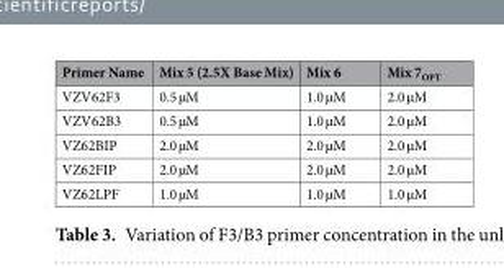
<table><thead><tr><td>Primer Name</td><td>Mix 5 (2.5X Base Mix)</td><td>Mix 6</td><td>Mix 7<sub>OPT</sub></td></tr></thead><tbody><tr><td>VZV62F3</td><td>0.5 µM</td><td>1.0 µM</td><td>2.0 µM</td></tr><tr><td>VZV62B3</td><td>0.5 µM</td><td>1.0 µM</td><td>2.0 µM</td></tr><tr><td>VZ62BIP</td><td>2.0 µM</td><td>2.0 µM</td><td>2.0 µM</td></tr><tr><td>VZ62FIP</td><td>2.0 µM</td><td>2.0 µM</td><td>2.0 µM</td></tr><tr><td>VZ62LPF</td><td>1.0 µM</td><td>1.0 µM</td><td>1.0 µM</td></tr></tbody></table>